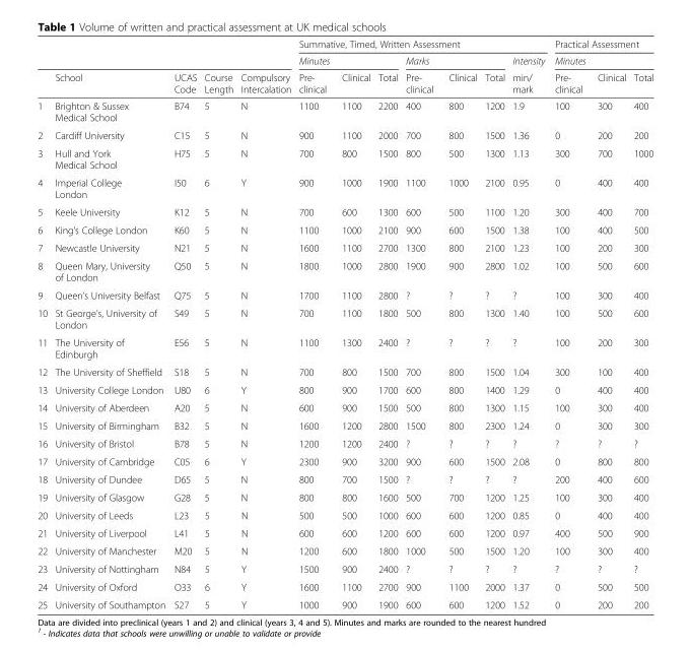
<table><thead><tr><td rowspan="3"></td><td rowspan="3">School</td><td rowspan="3">UCAS Code</td><td rowspan="3">Course Length</td><td rowspan="3">Compulsory Intercalation</td><td colspan="7">Summative, Timed, Written Assessment</td><td rowspan="2" colspan="3">Practical Assessment Minutes</td></tr><tr><td colspan="3">Minutes</td><td colspan="3">Marks</td><td rowspan="2">Intensity min/ mark</td></tr><tr><td>Pre- clinical</td><td>Clinical</td><td>Total</td><td>Pre- clinical</td><td>Clinical</td><td>Total</td><td>Pre- clinical</td><td>Clinical</td><td>Total</td></tr></thead><tbody><tr><td>1</td><td>Brighton &amp; Sussex Medical School</td><td>B74</td><td>5</td><td>N</td><td>1100</td><td>1100</td><td>2200</td><td>400</td><td>800</td><td>1200</td><td>1.9</td><td>100</td><td>300</td><td>400</td></tr><tr><td>2</td><td>Cardiff University</td><td>C15</td><td>5</td><td>N</td><td>900</td><td>1100</td><td>2000</td><td>700</td><td>800</td><td>1500</td><td>1.36</td><td>0</td><td>200</td><td>200</td></tr><tr><td>3</td><td>Hull and York Medical School</td><td>H75</td><td>5</td><td>N</td><td>700</td><td>800</td><td>1500</td><td>800</td><td>500</td><td>1300</td><td>1.13</td><td>300</td><td>700</td><td>1000</td></tr><tr><td>4</td><td>Imperial College London</td><td>I50</td><td>6</td><td>Y</td><td>900</td><td>1000</td><td>1900</td><td>1100</td><td>1000</td><td>2100</td><td>0.95</td><td>0</td><td>400</td><td>400</td></tr><tr><td>5</td><td>Keele University</td><td>K12</td><td>5</td><td>N</td><td>700</td><td>600</td><td>1300</td><td>600</td><td>500</td><td>1100</td><td>1.20</td><td>300</td><td>400</td><td>700</td></tr><tr><td>6</td><td>King’s College London</td><td>K60</td><td>5</td><td>N</td><td>1100</td><td>1000</td><td>2100</td><td>900</td><td>600</td><td>1500</td><td>1.38</td><td>100</td><td>400</td><td>500</td></tr><tr><td>7</td><td>Newcastle University</td><td>N21</td><td>5</td><td>N</td><td>1600</td><td>1100</td><td>2700</td><td>1300</td><td>800</td><td>2100</td><td>1.23</td><td>100</td><td>200</td><td>300</td></tr><tr><td>8</td><td>Queen Mary, University of London</td><td>Q50</td><td>5</td><td>N</td><td>1800</td><td>1000</td><td>2800</td><td>1900</td><td>900</td><td>2800</td><td>1.02</td><td>100</td><td>500</td><td>600</td></tr><tr><td>9</td><td>Queen’s University Belfast</td><td>Q75</td><td>5</td><td>N</td><td>1700</td><td>1100</td><td>2800</td><td>?</td><td>?</td><td>?</td><td>?</td><td>100</td><td>300</td><td>400</td></tr><tr><td>10</td><td>St George’s, University of London</td><td>S49</td><td>5</td><td>N</td><td>700</td><td>1100</td><td>1800</td><td>500</td><td>800</td><td>1300</td><td>1.40</td><td>100</td><td>500</td><td>600</td></tr><tr><td>11</td><td>The University of Edinburgh</td><td>E56</td><td>5</td><td>N</td><td>1100</td><td>1300</td><td>2400</td><td>?</td><td>?</td><td>?</td><td>?</td><td>100</td><td>200</td><td>300</td></tr><tr><td>12</td><td>The University of Sheffield</td><td>S18</td><td>5</td><td>N</td><td>700</td><td>800</td><td>1500</td><td>700</td><td>800</td><td>1500</td><td>1.04</td><td>300</td><td>100</td><td>400</td></tr><tr><td>13</td><td>University College London</td><td>U80</td><td>6</td><td>Y</td><td>800</td><td>900</td><td>1700</td><td>600</td><td>800</td><td>1400</td><td>1.29</td><td>0</td><td>400</td><td>400</td></tr><tr><td>14</td><td>University of Aberdeen</td><td>A20</td><td>5</td><td>N</td><td>600</td><td>900</td><td>1500</td><td>500</td><td>800</td><td>1300</td><td>1.15</td><td>100</td><td>300</td><td>400</td></tr><tr><td>15</td><td>University of Birmingham</td><td>B32</td><td>5</td><td>N</td><td>1600</td><td>1200</td><td>2800</td><td>1500</td><td>800</td><td>2300</td><td>1.24</td><td>0</td><td>300</td><td>300</td></tr><tr><td>16</td><td>University of Bristol</td><td>B78</td><td>5</td><td>N</td><td>1200</td><td>1200</td><td>2400</td><td>?</td><td>?</td><td>?</td><td>?</td><td>?</td><td>?</td><td>?</td></tr><tr><td>17</td><td>University of Cambridge</td><td>C05</td><td>6</td><td>Y</td><td>2300</td><td>900</td><td>3200</td><td>900</td><td>600</td><td>1500</td><td>2.08</td><td>0</td><td>800</td><td>800</td></tr><tr><td>18</td><td>University of Dundee</td><td>D65</td><td>5</td><td>N</td><td>800</td><td>700</td><td>1500</td><td>?</td><td>?</td><td>?</td><td>?</td><td>200</td><td>400</td><td>600</td></tr><tr><td>19</td><td>University of Glasgow</td><td>G28</td><td>5</td><td>N</td><td>800</td><td>800</td><td>1600</td><td>500</td><td>700</td><td>1200</td><td>1.25</td><td>100</td><td>300</td><td>400</td></tr><tr><td>20</td><td>University of Leeds</td><td>L23</td><td>5</td><td>N</td><td>500</td><td>500</td><td>1000</td><td>600</td><td>600</td><td>1200</td><td>0.85</td><td>0</td><td>400</td><td>400</td></tr><tr><td>21</td><td>University of Liverpool</td><td>L41</td><td>5</td><td>N</td><td>600</td><td>600</td><td>1200</td><td>600</td><td>600</td><td>1200</td><td>0.97</td><td>400</td><td>500</td><td>900</td></tr><tr><td>22</td><td>University of Manchester</td><td>M20</td><td>5</td><td>N</td><td>1200</td><td>600</td><td>1800</td><td>1000</td><td>500</td><td>1500</td><td>1.20</td><td>100</td><td>300</td><td>400</td></tr><tr><td>23</td><td>University of Nottingham</td><td>N84</td><td>5</td><td>Y</td><td>1500</td><td>900</td><td>2400</td><td>?</td><td>?</td><td>?</td><td>?</td><td>?</td><td>?</td><td>?</td></tr><tr><td>24</td><td>University of Oxford</td><td>O33</td><td>6</td><td>Y</td><td>1600</td><td>1100</td><td>2700</td><td>900</td><td>1100</td><td>2000</td><td>1.37</td><td>0</td><td>500</td><td>500</td></tr><tr><td>25</td><td>University of Southampton</td><td>S27</td><td>5</td><td>Y</td><td>1000</td><td>900</td><td>1900</td><td>600</td><td>600</td><td>1200</td><td>1.52</td><td>0</td><td>200</td><td>200</td></tr></tbody></table>